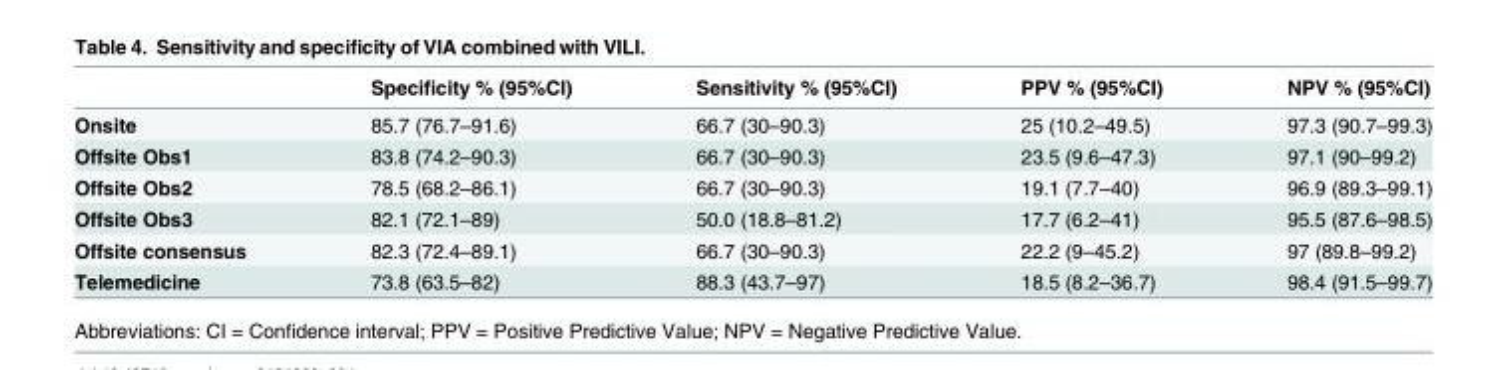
<table><thead><tr><td></td><td>Specificity % (95%CI)</td><td>Sensitivity % (95%CI)</td><td>PPV % (95%CI)</td><td>NPV % (95%CI)</td></tr></thead><tbody><tr><td>Onsite</td><td>85.7 (76.7–91.6)</td><td>66.7 (30–90.3)</td><td>25 (10.2–49.5)</td><td>97.3 (90.7–99.3)</td></tr><tr><td>Offsite Obs1</td><td>83.8 (74.2–90.3)</td><td>66.7 (30–90.3)</td><td>23.5 (9.6–47.3)</td><td>97.1 (90–99.2)</td></tr><tr><td>Offsite Obs2</td><td>78.5 (68.2–86.1)</td><td>66.7 (30–90.3)</td><td>19.1 (7.7–40)</td><td>96.9 (89.3–99.1)</td></tr><tr><td>Offsite Obs3</td><td>82.1 (72.1–89)</td><td>50.0 (18.8–81.2)</td><td>17.7 (6.2–41)</td><td>95.5 (87.6–98.5)</td></tr><tr><td>Offsite consensus</td><td>82.3 (72.4–89.1)</td><td>66.7 (30–90.3)</td><td>22.2 (9–45.2)</td><td>97 (89.8–99.2)</td></tr><tr><td>Telemedicine</td><td>73.8 (63.5–82)</td><td>88.3 (43.7–97)</td><td>18.5 (8.2–36.7)</td><td>98.4 (91.5–99.7)</td></tr></tbody></table>